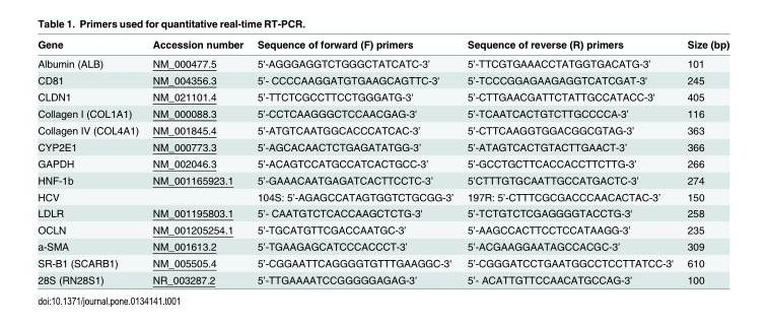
<table><thead><tr><td>Gene</td><td>Accession number</td><td>Sequence of forward (F) primers</td><td>Sequence of reverse (R) primers</td><td>Size (bp)</td></tr></thead><tbody><tr><td>Albumin (ALB)</td><td>NM_000477.5</td><td>5&#x27;-AGGGAGGTCTGGGCTATCATC-3’</td><td>5’-TTCGTGAAACCTATGGTGACATG-3’</td><td>101</td></tr><tr><td>CD81</td><td>NM_004356.3</td><td>5’- CCCCAAGGATGTGAAGCAGTTC-3&#x27;</td><td>5’-TCCCGGAGAAGAGGTCATCGAT-3&#x27;</td><td>245</td></tr><tr><td>CLDN1</td><td>NM_021101.4</td><td>5’-TTCTCGCCTTCCTGGGATG-3&#x27;</td><td>5’-CTTGAACGATTCTATTGCCATACC-3&#x27;</td><td>405</td></tr><tr><td>Collagen I (COL1A1)</td><td>NM_000088.3</td><td>5’-CCTCAAGGGCTCCAACGAG-3&#x27;</td><td>5’-TCAATCACTGTCTTGCCCCA-3’</td><td>116</td></tr><tr><td>Collagen IV (COL4A1)</td><td>NM_001845.4</td><td>5’-ATGTCAATGGCACCCATCAC-3’</td><td>5’-CTTCAAGGTGGACGGCGTAG-3’</td><td>363</td></tr><tr><td>CYP2E1</td><td>NM_000773.3</td><td>5’-AGCACAACTCTGAGATATGG-3’</td><td>5’-ATAGTCACTGTACTTGAACT-3’</td><td>366</td></tr><tr><td>GAPDH</td><td>NM_002046.3</td><td>5’-ACAGTCCATGCCATCACTGCC-3’</td><td>5’-GCCTGCTTCACCACCTTCTTG-3’</td><td>266</td></tr><tr><td>HNF-1b</td><td>NM_001165923.1</td><td>5’-GAAACAATGAGATCACTTCCTC-3’</td><td>5’CTTTGTGCAATTGCCATGACTC-3’</td><td>274</td></tr><tr><td>HCV</td><td></td><td>104S: 5’-AGAGCCATAGTGGTCTGCGG-3’</td><td>197R: 5’-CTTTCGCGACCCAACACTAC-3’</td><td>150</td></tr><tr><td>LDLR</td><td>NM_001195803.1</td><td>5’- CAATGTCTCACCAAGCTCTG-3&#x27;</td><td>5’-TCTGTCTCGAGGGGTACCTG-3&#x27;</td><td>258</td></tr><tr><td>OCLN</td><td>NM_001205254.1</td><td>5’-TGCATGTTCGACCAATGC-3’</td><td>5’-AAGCCACTTCCTCCATAAGG-3’</td><td>235</td></tr><tr><td>a-SMA</td><td>NM_001613.2</td><td>5’-TGAAGAGCATCCCACCCT-3’</td><td>5’-ACGAAGGAATAGCCACGC-3’</td><td>309</td></tr><tr><td>SR-B1 (SCARB1)</td><td>NM_005505.4</td><td>5’-CGGAATTCAGGGGTGTTTGAAGGC-3&#x27;</td><td>5’-CGGGATCCTGAATGGCCTCCTTATCC-3&#x27;</td><td>610</td></tr><tr><td>28S (RN28S1)</td><td>NR_003287.2</td><td>5’-TTGAAAATCCGGGGGAGAG-3’</td><td>5’- ACATTGTTCCAACATGCCAG-3’</td><td>100</td></tr></tbody></table>